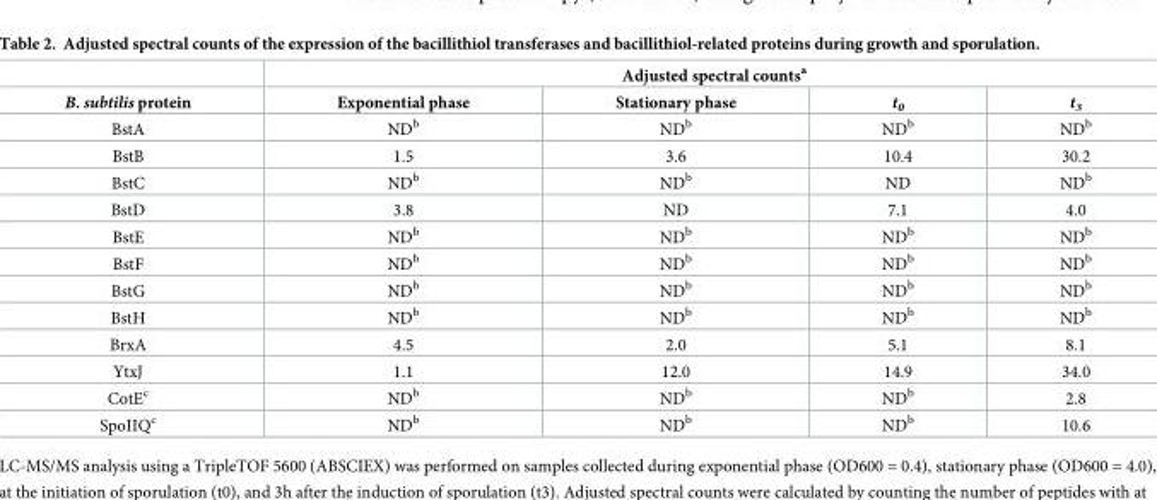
<table><thead><tr><td rowspan="2">B. subtilis protein</td><td colspan="4">Adjusted spectral counts<sup>a</sup></td></tr><tr><td>Exponential phase</td><td>Stationary phase</td><td>t<sub>0</sub></td><td>t<sub>3</sub></td></tr></thead><tbody><tr><td>BstA</td><td>ND<sup>b</sup></td><td>ND<sup>b</sup></td><td>ND<sup>b</sup></td><td>ND<sup>b</sup></td></tr><tr><td>BstB</td><td>1.5</td><td>3.6</td><td>10.4</td><td>30.2</td></tr><tr><td>BstC</td><td>ND<sup>b</sup></td><td>ND<sup>b</sup></td><td>ND</td><td>ND<sup>b</sup></td></tr><tr><td>BstD</td><td>3.8</td><td>ND</td><td>7.1</td><td>4.0</td></tr><tr><td>BstE</td><td>ND<sup>b</sup></td><td>ND<sup>b</sup></td><td>ND<sup>b</sup></td><td>ND<sup>b</sup></td></tr><tr><td>BstF</td><td>ND<sup>b</sup></td><td>ND<sup>b</sup></td><td>ND<sup>b</sup></td><td>ND<sup>b</sup></td></tr><tr><td>BstG</td><td>ND<sup>b</sup></td><td>ND<sup>b</sup></td><td>ND<sup>b</sup></td><td>ND<sup>b</sup></td></tr><tr><td>BstH</td><td>ND<sup>b</sup></td><td>ND<sup>b</sup></td><td>ND<sup>b</sup></td><td>ND<sup>b</sup></td></tr><tr><td>BrxA</td><td>4.5</td><td>2.0</td><td>5.1</td><td>8.1</td></tr><tr><td>YtxJ</td><td>1.1</td><td>12.0</td><td>14.9</td><td>34.0</td></tr><tr><td>CotE<sup>c</sup></td><td>ND<sup>b</sup></td><td>ND<sup>b</sup></td><td>ND<sup>b</sup></td><td>2.8</td></tr><tr><td>SpoIIQ<sup>c</sup></td><td>ND<sup>b</sup></td><td>ND<sup>b</sup></td><td>ND<sup>b</sup></td><td>10.6</td></tr></tbody></table>